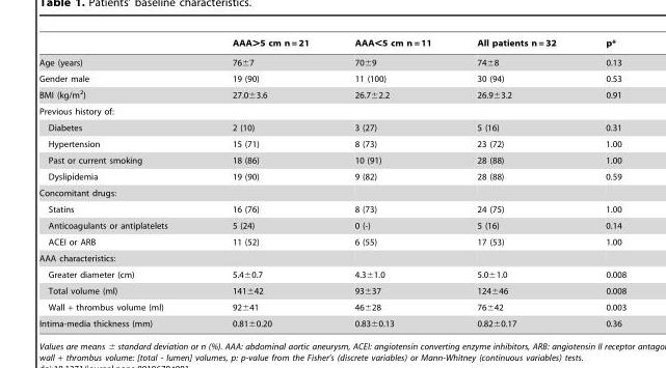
<table><thead><tr><td></td><td>AAA&gt;5 cm n = 21</td><td>AAA&lt;5 cm n = 11</td><td>All patients n = 32</td><td>p*</td></tr></thead><tbody><tr><td>Age (years)</td><td>76±7</td><td>70±9</td><td>74±8</td><td>0.13</td></tr><tr><td>Gender male</td><td>19 (90)</td><td>11 (100)</td><td>30 (94)</td><td>0.53</td></tr><tr><td>BMI (kg/m<sup>2</sup>)</td><td>27.0±3.6</td><td>26.7±2.2</td><td>26.9±3.2</td><td>0.91</td></tr><tr><td colspan="5">Previous history of:</td></tr><tr><td>Diabetes</td><td>2 (10)</td><td>3 (27)</td><td>5 (16)</td><td>0.31</td></tr><tr><td>Hypertension</td><td>15 (71)</td><td>8 (73)</td><td>23 (72)</td><td>1.00</td></tr><tr><td>Past or current smoking</td><td>18 (86)</td><td>10 (91)</td><td>28 (88)</td><td>1.00</td></tr><tr><td>Dyslipidemia</td><td>19 (90)</td><td>9 (82)</td><td>28 (88)</td><td>0.59</td></tr><tr><td colspan="5">Concomitant drugs:</td></tr><tr><td>Statins</td><td>16 (76)</td><td>8 (73)</td><td>24 (75)</td><td>1.00</td></tr><tr><td>Anticoagulants or antiplatelets</td><td>5 (24)</td><td>0 (-)</td><td>5 (16)</td><td>0.14</td></tr><tr><td>ACEI or ARB</td><td>11 (52)</td><td>6 (55)</td><td>17 (53)</td><td>1.00</td></tr><tr><td colspan="5">AAA characteristics:</td></tr><tr><td>Greater diameter (cm)</td><td>5.4±0.7</td><td>4.3±1.0</td><td>5.0±1.0</td><td>0.008</td></tr><tr><td>Total volume (ml)</td><td>141±42</td><td>93±37</td><td>124±46</td><td>0.008</td></tr><tr><td>Wall + thrombus volume (ml)</td><td>92±41</td><td>46±28</td><td>76±42</td><td>0.003</td></tr><tr><td>Intima-media thickness (mm)</td><td>0.81±0.20</td><td>0.83±0.13</td><td>0.82±0.17</td><td>0.36</td></tr></tbody></table>